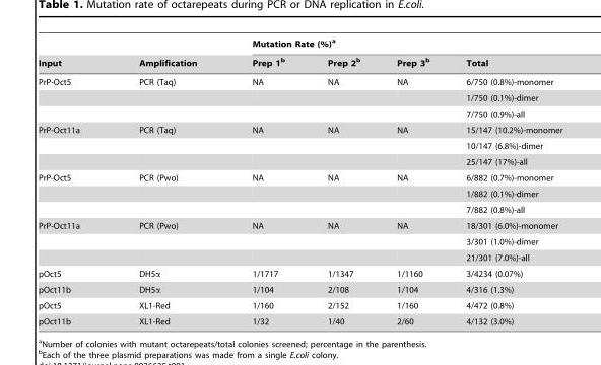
<table><thead><tr><td rowspan="2">Input</td><td rowspan="2">Amplification</td><td colspan="4">Mutation Rate (%)<sup>a</sup></td></tr><tr><td>Prep 1<sup>b</sup></td><td>Prep 2<sup>b</sup></td><td>Prep 3<sup>b</sup></td><td>Total</td></tr></thead><tbody><tr><td rowspan="3">PrP-Oct5</td><td>PCR (Taq)</td><td>NA</td><td>NA</td><td>NA</td><td>6/750 (0.8%)-monomer</td></tr><tr><td></td><td></td><td></td><td></td><td>1/750 (0.1%)-dimer</td></tr><tr><td></td><td></td><td></td><td></td><td>7/750 (0.9%)-all</td></tr><tr><td rowspan="3">PrP-Oct11a</td><td>PCR (Taq)</td><td>NA</td><td>NA</td><td>NA</td><td>15/147 (10.2%)-monomer</td></tr><tr><td></td><td></td><td></td><td></td><td>10/147 (6.8%)-dimer</td></tr><tr><td></td><td></td><td></td><td></td><td>25/147 (17%)-all</td></tr><tr><td rowspan="3">PrP-Oct5</td><td>PCR (Pwo)</td><td>NA</td><td>NA</td><td>NA</td><td>6/882 (0.7%)-monomer</td></tr><tr><td></td><td></td><td></td><td></td><td>1/882 (0.1%)-dimer</td></tr><tr><td></td><td></td><td></td><td></td><td>7/882 (0.8%)-all</td></tr><tr><td rowspan="3">PrP-Oct11a</td><td>PCR (Pwo)</td><td>NA</td><td>NA</td><td>NA</td><td>18/301 (6.0%)-monomer</td></tr><tr><td></td><td></td><td></td><td></td><td>3/301 (1.0%)-dimer</td></tr><tr><td></td><td></td><td></td><td></td><td>21/301 (7.0%)-all</td></tr><tr><td>pOct5</td><td>DH5α</td><td>1/1717</td><td>1/1347</td><td>1/1160</td><td>3/4234 (0.07%)</td></tr><tr><td>pOct11b</td><td>DH5α</td><td>1/104</td><td>2/108</td><td>1/104</td><td>4/316 (1.3%)</td></tr><tr><td>pOct5</td><td>XL1-Red</td><td>1/160</td><td>2/152</td><td>1/160</td><td>4/472 (0.8%)</td></tr><tr><td>pOct11b</td><td>XL1-Red</td><td>1/32</td><td>1/40</td><td>2/60</td><td>4/132 (3.0%)</td></tr></tbody></table>